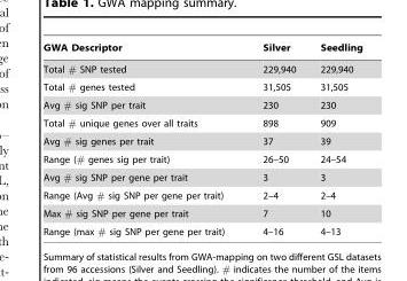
<table><thead><tr><td>GWA Descriptor</td><td>Silver</td><td>Seedling</td></tr></thead><tbody><tr><td>Total # SNP tested</td><td>229,940</td><td>229,940</td></tr><tr><td>Total # genes tested</td><td>31,505</td><td>31,505</td></tr><tr><td>Avg # sig SNP per trait</td><td>230</td><td>230</td></tr><tr><td>Total # unique genes over all traits</td><td>898</td><td>909</td></tr><tr><td>Avg # sig genes per trait</td><td>37</td><td>39</td></tr><tr><td>Range (# genes sig per trait)</td><td>26–50</td><td>24–54</td></tr><tr><td>Avg # sig SNP per gene per trait</td><td>3</td><td>3</td></tr><tr><td>Range (Avg # sig SNP per gene per trait)</td><td>2–4</td><td>2–4</td></tr><tr><td>Max # sig SNP per gene per trait</td><td>7</td><td>10</td></tr><tr><td>Range (max # sig SNP per gene per trait)</td><td>4–16</td><td>4–13</td></tr></tbody></table>